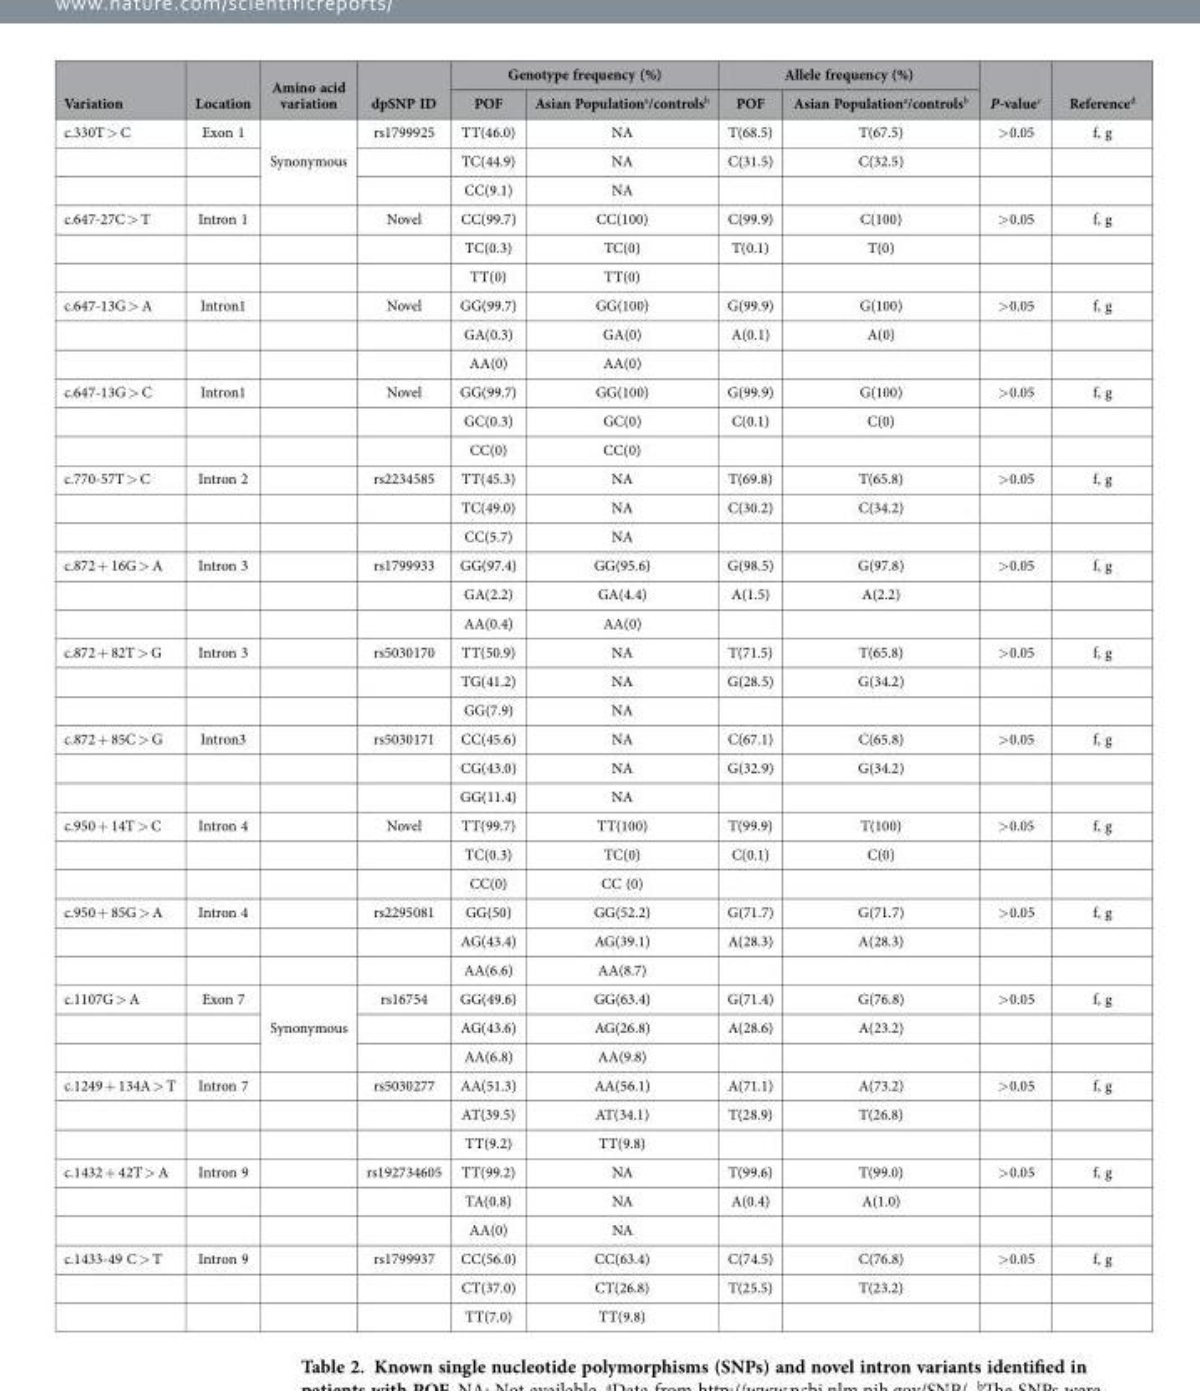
<table><thead><tr><td rowspan="2">Variation</td><td rowspan="2">Location</td><td rowspan="2">Amino acid variation</td><td rowspan="2">dpSNP ID</td><td colspan="2">Genotype frequency (%)</td><td colspan="2">Allele frequency (%)</td><td rowspan="2">P-value<sup>c</sup></td><td rowspan="2">Reference<sup>d</sup></td></tr><tr><td>POF</td><td>Asian Population<sup>a</sup>/controls<sup>b</sup></td><td>POF</td><td>Asian Population<sup>a</sup>/controls<sup>b</sup></td></tr></thead><tbody><tr><td rowspan="3">c.330T &gt; C</td><td>Exon 1</td><td rowspan="3">Synonymous</td><td>rs1799925</td><td>TT(46.0)</td><td>NA</td><td>T(68.5)</td><td>T(67.5)</td><td>&gt; 0.05</td><td>f, g</td></tr><tr><td></td><td></td><td>TC(44.9)</td><td>NA</td><td>C(31.5)</td><td>C(32.5)</td><td></td><td></td></tr><tr><td></td><td></td><td>CC(9.1)</td><td>NA</td><td></td><td></td><td></td><td></td></tr><tr><td rowspan="3">c.647-27C &gt; T</td><td>Intron 1</td><td></td><td>Novel</td><td>CC(99.7)</td><td>CC(100)</td><td>C(99.9)</td><td>C(100)</td><td>&gt; 0.05</td><td>f, g</td></tr><tr><td></td><td></td><td></td><td>TC(0.3)</td><td>TC(0)</td><td>T(0.1)</td><td>T(0)</td><td></td><td></td></tr><tr><td></td><td></td><td></td><td>TT(0)</td><td>TT(0)</td><td></td><td></td><td></td><td></td></tr><tr><td rowspan="3">c.647-13G &gt; A</td><td>Intron1</td><td></td><td>Novel</td><td>GG(99.7)</td><td>GG(100)</td><td>G(99.9)</td><td>G(100)</td><td>&gt; 0.05</td><td>f, g</td></tr><tr><td></td><td></td><td></td><td>GA(0.3)</td><td>GA(0)</td><td>A(0.1)</td><td>A(0)</td><td></td><td></td></tr><tr><td></td><td></td><td></td><td>AA(0)</td><td>AA(0)</td><td></td><td></td><td></td><td></td></tr><tr><td rowspan="3">c.647-13G &gt; C</td><td>Intron1</td><td></td><td>Novel</td><td>GG(99.7)</td><td>GG(100)</td><td>G(99.9)</td><td>G(100)</td><td>&gt; 0.05</td><td>f, g</td></tr><tr><td></td><td></td><td></td><td>GC(0.3)</td><td>GC(0)</td><td>C(0.1)</td><td>C(0)</td><td></td><td></td></tr><tr><td></td><td></td><td></td><td>CC(0)</td><td>CC(0)</td><td></td><td></td><td></td><td></td></tr><tr><td rowspan="3">c.770-57T &gt; C</td><td>Intron 2</td><td></td><td>rs2234585</td><td>TT(45.3)</td><td>NA</td><td>T(69.8)</td><td>T(65.8)</td><td>&gt; 0.05</td><td>f, g</td></tr><tr><td></td><td></td><td></td><td>TC(49.0)</td><td>NA</td><td>C(30.2)</td><td>C(34.2)</td><td></td><td></td></tr><tr><td></td><td></td><td></td><td>CC(5.7)</td><td>NA</td><td></td><td></td><td></td><td></td></tr><tr><td rowspan="3">c.872 + 16G &gt; A</td><td>Intron 3</td><td></td><td>rs1799933</td><td>GG(97.4)</td><td>GG(95.6)</td><td>G(98.5)</td><td>G(97.8)</td><td>&gt; 0.05</td><td>f, g</td></tr><tr><td></td><td></td><td></td><td>GA(2.2)</td><td>GA(4.4)</td><td>A(1.5)</td><td>A(2.2)</td><td></td><td></td></tr><tr><td></td><td></td><td></td><td>AA(0.4)</td><td>AA(0)</td><td></td><td></td><td></td><td></td></tr><tr><td rowspan="3">c.872 + 82T &gt; G</td><td>Intron 3</td><td></td><td>rs5030170</td><td>TT(50.9)</td><td>NA</td><td>T(71.5)</td><td>T(65.8)</td><td>&gt; 0.05</td><td>f, g</td></tr><tr><td></td><td></td><td></td><td>TG(41.2)</td><td>NA</td><td>G(28.5)</td><td>G(34.2)</td><td></td><td></td></tr><tr><td></td><td></td><td></td><td>GG(7.9)</td><td>NA</td><td></td><td></td><td></td><td></td></tr><tr><td rowspan="3">c.872 + 85C &gt; G</td><td>Intron3</td><td></td><td>rs5030171</td><td>CC(45.6)</td><td>NA</td><td>C(67.1)</td><td>C(65.8)</td><td>&gt; 0.05</td><td>f, g</td></tr><tr><td></td><td></td><td></td><td>CG(43.0)</td><td>NA</td><td>G(32.9)</td><td>G(34.2)</td><td></td><td></td></tr><tr><td></td><td></td><td></td><td>GG(11.4)</td><td>NA</td><td></td><td></td><td></td><td></td></tr><tr><td rowspan="3">c.950 + 14T &gt; C</td><td>Intron 4</td><td></td><td>Novel</td><td>TT(99.7)</td><td>TT(100)</td><td>T(99.9)</td><td>T(100)</td><td>&gt; 0.05</td><td>f, g</td></tr><tr><td></td><td></td><td></td><td>TC(0.3)</td><td>TC(0)</td><td>C(0.1)</td><td>C(0)</td><td></td><td></td></tr><tr><td></td><td></td><td></td><td>CC(0)</td><td>CC (0)</td><td></td><td></td><td></td><td></td></tr><tr><td rowspan="3">c.950 + 85G &gt; A</td><td>Intron 4</td><td></td><td>rs2295081</td><td>GG(50)</td><td>GG(52.2)</td><td>G(71.7)</td><td>G(71.7)</td><td>&gt; 0.05</td><td>f, g</td></tr><tr><td></td><td></td><td></td><td>AG(43.4)</td><td>AG(39.1)</td><td>A(28.3)</td><td>A(28.3)</td><td></td><td></td></tr><tr><td></td><td></td><td></td><td>AA(6.6)</td><td>AA(8.7)</td><td></td><td></td><td></td><td></td></tr><tr><td rowspan="3">c.1107G &gt; A</td><td>Exon 7</td><td rowspan="3">Synonymous</td><td>rs16754</td><td>GG(49.6)</td><td>GG(63.4)</td><td>G(71.4)</td><td>G(76.8)</td><td>&gt; 0.05</td><td>f, g</td></tr><tr><td></td><td></td><td>AG(43.6)</td><td>AG(26.8)</td><td>A(28.6)</td><td>A(23.2)</td><td></td><td></td></tr><tr><td></td><td></td><td>AA(6.8)</td><td>AA(9.8)</td><td></td><td></td><td></td><td></td></tr><tr><td rowspan="3">c.1249 + 134A &gt; T</td><td>Intron 7</td><td></td><td>rs5030277</td><td>AA(51.3)</td><td>AA(56.1)</td><td>A(71.1)</td><td>A(73.2)</td><td>&gt; 0.05</td><td>f, g</td></tr><tr><td></td><td></td><td></td><td>AT(39.5)</td><td>AT(34.1)</td><td>T(28.9)</td><td>T(26.8)</td><td></td><td></td></tr><tr><td></td><td></td><td></td><td>TT(9.2)</td><td>TT(9.8)</td><td></td><td></td><td></td><td></td></tr><tr><td rowspan="3">c.1432 + 42T &gt; A</td><td>Intron 9</td><td></td><td>rs192734605</td><td>TT(99.2)</td><td>NA</td><td>T(99.6)</td><td>T(99.0)</td><td>&gt; 0.05</td><td>f, g</td></tr><tr><td></td><td></td><td></td><td>TA(0.8)</td><td>NA</td><td>A(0.4)</td><td>A(1.0)</td><td></td><td></td></tr><tr><td></td><td></td><td></td><td>AA(0)</td><td>NA</td><td></td><td></td><td></td><td></td></tr><tr><td rowspan="3">c.1433-49 C &gt; T</td><td>Intron 9</td><td></td><td>rs1799937</td><td>CC(56.0)</td><td>CC(63.4)</td><td>C(74.5)</td><td>C(76.8)</td><td>&gt; 0.05</td><td>f, g</td></tr><tr><td></td><td></td><td></td><td>CT(37.0)</td><td>CT(26.8)</td><td>T(25.5)</td><td>T(23.2)</td><td></td><td></td></tr><tr><td></td><td></td><td></td><td>TT(7.0)</td><td>TT(9.8)</td><td></td><td></td><td></td><td></td></tr></tbody></table>